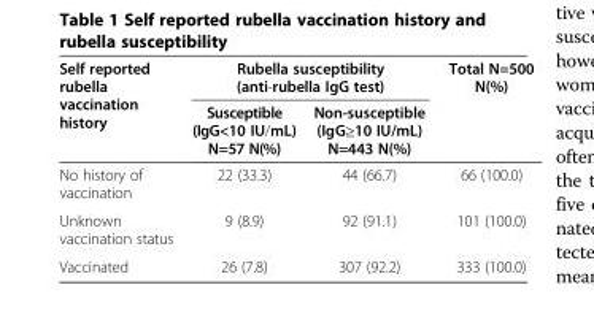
<table><thead><tr><td rowspan="2">Self reported rubella vaccination history</td><td colspan="2">Rubella susceptibility (anti-rubella IgG test)</td><td rowspan="2">Total N=500 N(%)</td></tr><tr><td>Susceptible (IgG&lt;10 IU/mL) N=57 N(%)</td><td>Non-susceptible (IgG≥10 IU/mL) N=443 N(%)</td></tr></thead><tbody><tr><td>No history of vaccination</td><td>22 (33.3)</td><td>44 (66.7)</td><td>66 (100.0)</td></tr><tr><td>Unknown vaccination status</td><td>9 (8.9)</td><td>92 (91.1)</td><td>101 (100.0)</td></tr><tr><td>Vaccinated</td><td>26 (7.8)</td><td>307 (92.2)</td><td>333 (100.0)</td></tr></tbody></table>